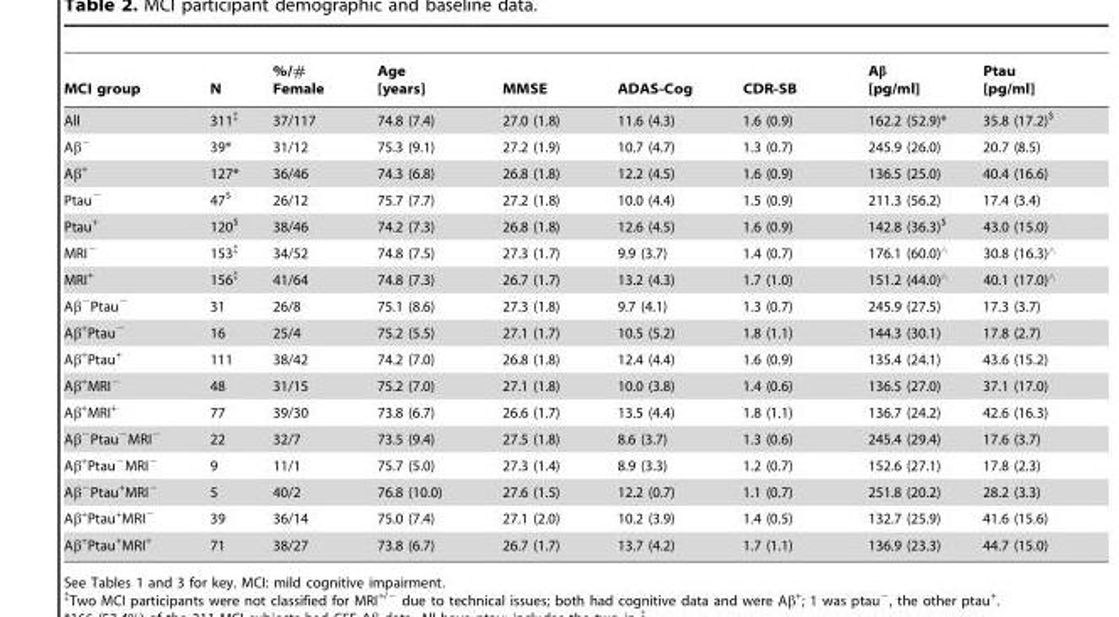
<table><thead><tr><td>MCI group</td><td>N</td><td>%/# Female</td><td>Age [years]</td><td>MMSE</td><td>ADAS-Cog</td><td>CDR-SB</td><td>Aβ [pg/ml]</td><td>Ptau [pg/ml]</td></tr></thead><tbody><tr><td>All</td><td>311‡</td><td>37/117</td><td>74.8 (7.4)</td><td>27.0 (1.8)</td><td>11.6 (4.3)</td><td>1.6 (0.9)</td><td>162.2 (52.9)*</td><td>35.8 (17.2)$</td></tr><tr><td>Aβ<sup>−</sup></td><td>39*</td><td>31/12</td><td>75.3 (9.1)</td><td>27.2 (1.9)</td><td>10.7 (4.7)</td><td>1.3 (0.7)</td><td>245.9 (26.0)</td><td>20.7 (8.5)</td></tr><tr><td>Aβ<sup>+</sup></td><td>127*</td><td>36/46</td><td>74.3 (6.8)</td><td>26.8 (1.8)</td><td>12.2 (4.5)</td><td>1.6 (0.9)</td><td>136.5 (25.0)</td><td>40.4 (16.6)</td></tr><tr><td>Ptau<sup>−</sup></td><td>47$</td><td>26/12</td><td>75.7 (7.7)</td><td>27.2 (1.8)</td><td>10.0 (4.4)</td><td>1.5 (0.9)</td><td>211.3 (56.2)</td><td>17.4 (3.4)</td></tr><tr><td>Ptau<sup>+</sup></td><td>120$</td><td>38/46</td><td>74.2 (7.3)</td><td>26.8 (1.8)</td><td>12.6 (4.5)</td><td>1.6 (0.9)</td><td>142.8 (36.3)$</td><td>43.0 (15.0)</td></tr><tr><td>MRI<sup>−</sup></td><td>153‡</td><td>34/52</td><td>74.8 (7.5)</td><td>27.3 (1.7)</td><td>9.9 (3.7)</td><td>1.4 (0.7)</td><td>176.1 (60.0)‘</td><td>30.8 (16.3)‘</td></tr><tr><td>MRI<sup>+</sup></td><td>156‡</td><td>41/64</td><td>74.8 (7.3)</td><td>26.7 (1.7)</td><td>13.2 (4.3)</td><td>1.7 (1.0)</td><td>151.2 (44.0)‘</td><td>40.1 (17.0)‘</td></tr><tr><td>Aβ<sup>−</sup>Ptau<sup>−</sup></td><td>31</td><td>26/8</td><td>75.1 (8.6)</td><td>27.3 (1.8)</td><td>9.7 (4.1)</td><td>1.3 (0.7)</td><td>245.9 (27.5)</td><td>17.3 (3.7)</td></tr><tr><td>Aβ<sup>+</sup>Ptau<sup>−</sup></td><td>16</td><td>25/4</td><td>75.2 (5.5)</td><td>27.1 (1.7)</td><td>10.5 (5.2)</td><td>1.8 (1.1)</td><td>144.3 (30.1)</td><td>17.8 (2.7)</td></tr><tr><td>Aβ<sup>+</sup>Ptau<sup>+</sup></td><td>111</td><td>38/42</td><td>74.2 (7.0)</td><td>26.8 (1.8)</td><td>12.4 (4.4)</td><td>1.6 (0.9)</td><td>135.4 (24.1)</td><td>43.6 (15.2)</td></tr><tr><td>Aβ<sup>+</sup>MRI<sup>−</sup></td><td>48</td><td>31/15</td><td>75.2 (7.0)</td><td>27.1 (1.8)</td><td>10.0 (3.8)</td><td>1.4 (0.6)</td><td>136.5 (27.0)</td><td>37.1 (17.0)</td></tr><tr><td>Aβ<sup>+</sup>MRI<sup>+</sup></td><td>77</td><td>39/30</td><td>73.8 (6.7)</td><td>26.6 (1.7)</td><td>13.5 (4.4)</td><td>1.8 (1.1)</td><td>136.7 (24.2)</td><td>42.6 (16.3)</td></tr><tr><td>Aβ<sup>−</sup>Ptau<sup>−</sup>MRI<sup>−</sup></td><td>22</td><td>32/7</td><td>73.5 (9.4)</td><td>27.5 (1.8)</td><td>8.6 (3.7)</td><td>1.3 (0.6)</td><td>245.4 (29.4)</td><td>17.6 (3.7)</td></tr><tr><td>Aβ<sup>+</sup>Ptau<sup>−</sup>MRI<sup>−</sup></td><td>9</td><td>11/1</td><td>75.7 (5.0)</td><td>27.3 (1.4)</td><td>8.9 (3.3)</td><td>1.2 (0.7)</td><td>152.6 (27.1)</td><td>17.8 (2.3)</td></tr><tr><td>Aβ<sup>−</sup>Ptau<sup>+</sup>MRI<sup>−</sup></td><td>5</td><td>40/2</td><td>76.8 (10.0)</td><td>27.6 (1.5)</td><td>12.2 (0.7)</td><td>1.1 (0.7)</td><td>251.8 (20.2)</td><td>28.2 (3.3)</td></tr><tr><td>Aβ<sup>+</sup>Ptau<sup>+</sup>MRI<sup>−</sup></td><td>39</td><td>36/14</td><td>75.0 (7.4)</td><td>27.1 (2.0)</td><td>10.2 (3.9)</td><td>1.4 (0.5)</td><td>132.7 (25.9)</td><td>41.6 (15.6)</td></tr><tr><td>Aβ<sup>+</sup>Ptau<sup>+</sup>MRI<sup>+</sup></td><td>71</td><td>38/27</td><td>73.8 (6.7)</td><td>26.7 (1.7)</td><td>13.7 (4.2)</td><td>1.7 (1.1)</td><td>136.9 (23.3)</td><td>44.7 (15.0)</td></tr></tbody></table>